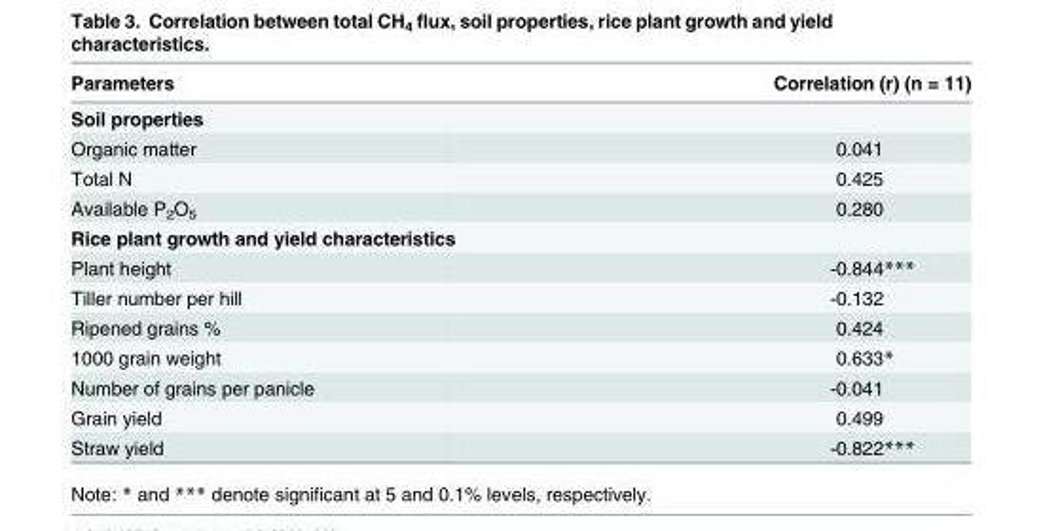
<table><thead><tr><td>Parameters</td><td>Correlation (r) (n = 11)</td></tr></thead><tbody><tr><td colspan="2">Soil properties</td></tr><tr><td>Organic matter</td><td>0.041</td></tr><tr><td>Total N</td><td>0.425</td></tr><tr><td>Available P<sub>2</sub>O<sub>5</sub></td><td>0.280</td></tr><tr><td colspan="2">Rice plant growth and yield characteristics</td></tr><tr><td>Plant height</td><td>-0.844***</td></tr><tr><td>Tiller number per hill</td><td>-0.132</td></tr><tr><td>Ripened grains %</td><td>0.424</td></tr><tr><td>1000 grain weight</td><td>0.633*</td></tr><tr><td>Number of grains per panicle</td><td>-0.041</td></tr><tr><td>Grain yield</td><td>0.499</td></tr><tr><td>Straw yield</td><td>-0.822***</td></tr></tbody></table>